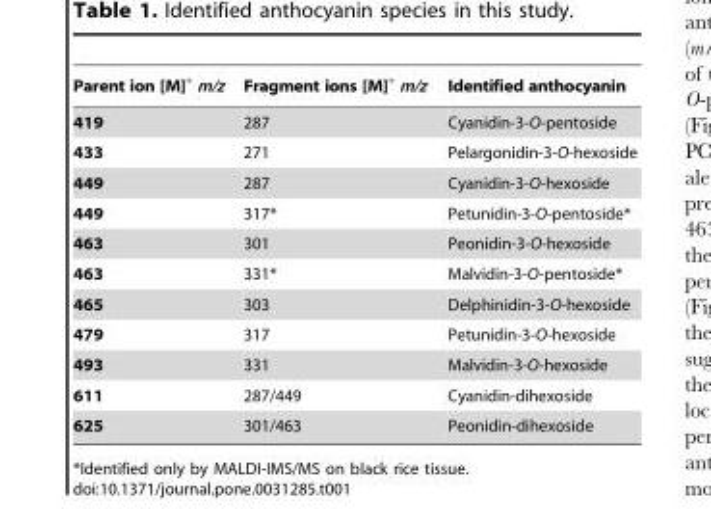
<table><thead><tr><td>Parent ion [M]<sup>+</sup> m/z</td><td>Fragment ions [M]<sup>+</sup> m/z</td><td>Identified anthocyanin</td></tr></thead><tbody><tr><td>419</td><td>287</td><td>Cyanidin-3-O-pentoside</td></tr><tr><td>433</td><td>271</td><td>Pelargonidin-3-O-hexoside</td></tr><tr><td>449</td><td>287</td><td>Cyanidin-3-O-hexoside</td></tr><tr><td>449</td><td>317*</td><td>Petunidin-3-O-pentoside*</td></tr><tr><td>463</td><td>301</td><td>Peonidin-3-O-hexoside</td></tr><tr><td>463</td><td>331*</td><td>Malvidin-3-O-pentoside*</td></tr><tr><td>465</td><td>303</td><td>Delphinidin-3-O-hexoside</td></tr><tr><td>479</td><td>317</td><td>Petunidin-3-O-hexoside</td></tr><tr><td>493</td><td>331</td><td>Malvidin-3-O-hexoside</td></tr><tr><td>611</td><td>287/449</td><td>Cyanidin-dihexoside</td></tr><tr><td>625</td><td>301/463</td><td>Peonidin-dihexoside</td></tr></tbody></table>